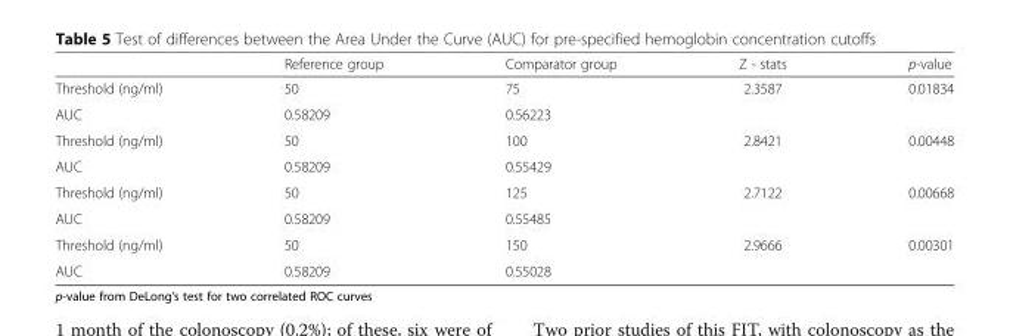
<table><thead><tr><td></td><td>Reference group</td><td>Comparator group</td><td>Z - stats</td><td>p-value</td></tr></thead><tbody><tr><td>Threshold (ng/ml)</td><td>50</td><td>75</td><td rowspan="2">2.3587</td><td rowspan="2">0.01834</td></tr><tr><td>AUC</td><td>0.58209</td><td>0.56223</td></tr><tr><td>Threshold (ng/ml)</td><td>50</td><td>100</td><td rowspan="2">2.8421</td><td rowspan="2">0.00448</td></tr><tr><td>AUC</td><td>0.58209</td><td>0.55429</td></tr><tr><td>Threshold (ng/ml)</td><td>50</td><td>125</td><td rowspan="2">2.7122</td><td rowspan="2">0.00668</td></tr><tr><td>AUC</td><td>0.58209</td><td>0.55485</td></tr><tr><td>Threshold (ng/ml)</td><td>50</td><td>150</td><td rowspan="2">2.9666</td><td rowspan="2">0.00301</td></tr><tr><td>AUC</td><td>0.58209</td><td>0.55028</td></tr></tbody></table>